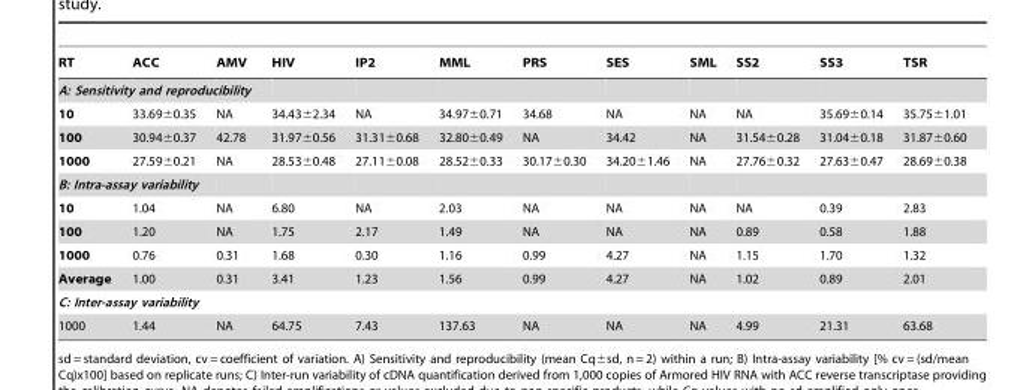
<table><thead><tr><td>RT</td><td>ACC</td><td>AMV</td><td>HIV</td><td>IP2</td><td>MML</td><td>PRS</td><td>SES</td><td>SML</td><td>SS2</td><td>SS3</td><td>TSR</td></tr></thead><tbody><tr><td colspan="12">A: Sensitivity and reproducibility</td></tr><tr><td>10</td><td>33.69±0.35</td><td>NA</td><td>34.43±2.34</td><td>NA</td><td>34.97±0.71</td><td>34.68</td><td>NA</td><td>NA</td><td>NA</td><td>35.69±0.14</td><td>35.75±1.01</td></tr><tr><td>100</td><td>30.94±0.37</td><td>42.78</td><td>31.97±0.56</td><td>31.31±0.68</td><td>32.80±0.49</td><td>NA</td><td>34.42</td><td>NA</td><td>31.54±0.28</td><td>31.04±0.18</td><td>31.87±0.60</td></tr><tr><td>1000</td><td>27.59±0.21</td><td>NA</td><td>28.53±0.48</td><td>27.11±0.08</td><td>28.52±0.33</td><td>30.17±0.30</td><td>34.20±1.46</td><td>NA</td><td>27.76±0.32</td><td>27.63±0.47</td><td>28.69±0.38</td></tr><tr><td colspan="12">B: Intra-assay variability</td></tr><tr><td>10</td><td>1.04</td><td>NA</td><td>6.80</td><td>NA</td><td>2.03</td><td>NA</td><td>NA</td><td>NA</td><td>NA</td><td>0.39</td><td>2.83</td></tr><tr><td>100</td><td>1.20</td><td>NA</td><td>1.75</td><td>2.17</td><td>1.49</td><td>NA</td><td>NA</td><td>NA</td><td>0.89</td><td>0.58</td><td>1.88</td></tr><tr><td>1000</td><td>0.76</td><td>0.31</td><td>1.68</td><td>0.30</td><td>1.16</td><td>0.99</td><td>4.27</td><td>NA</td><td>1.15</td><td>1.70</td><td>1.32</td></tr><tr><td>Average</td><td>1.00</td><td>0.31</td><td>3.41</td><td>1.23</td><td>1.56</td><td>0.99</td><td>4.27</td><td>NA</td><td>1.02</td><td>0.89</td><td>2.01</td></tr><tr><td colspan="12">C: Inter-assay variability</td></tr><tr><td>1000</td><td>1.44</td><td>NA</td><td>64.75</td><td>7.43</td><td>137.63</td><td>NA</td><td>NA</td><td>NA</td><td>4.99</td><td>21.31</td><td>63.68</td></tr></tbody></table>